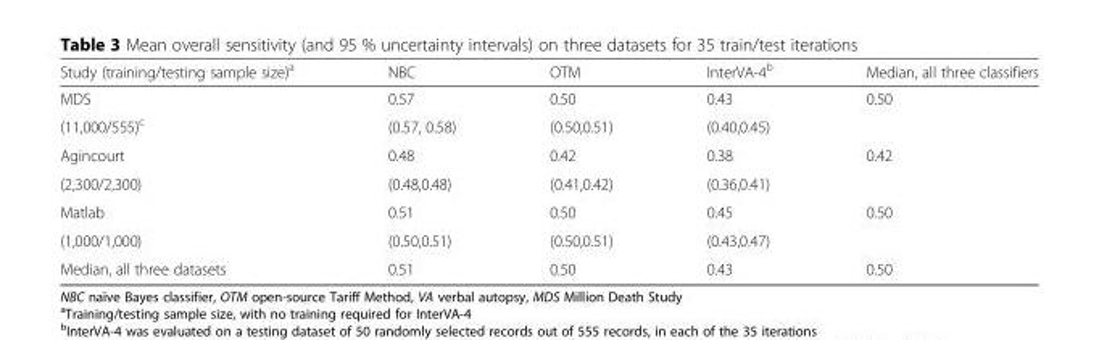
<table><thead><tr><td>Study (training/testing sample size)<sup>a</sup></td><td>NBC</td><td>OTM</td><td>InterVA-4<sup>b</sup></td><td>Median, all three classifiers</td></tr></thead><tbody><tr><td>MDS</td><td>0.57</td><td>0.50</td><td>0.43</td><td rowspan="2">0.50</td></tr><tr><td>(11,000/555)<sup>c</sup></td><td>(0.57, 0.58)</td><td>(0.50,0.51)</td><td>(0.40,0.45)</td></tr><tr><td>Agincourt</td><td>0.48</td><td>0.42</td><td>0.38</td><td rowspan="2">0.42</td></tr><tr><td>(2,300/2,300)</td><td>(0.48,0.48)</td><td>(0.41,0.42)</td><td>(0.36,0.41)</td></tr><tr><td>Matlab</td><td>0.51</td><td>0.50</td><td>0.45</td><td rowspan="2">0.50</td></tr><tr><td>(1,000/1,000)</td><td>(0.50,0.51)</td><td>(0.50,0.51)</td><td>(0.43,0.47)</td></tr><tr><td>Median, all three datasets</td><td>0.51</td><td>0.50</td><td>0.43</td><td>0.50</td></tr></tbody></table>